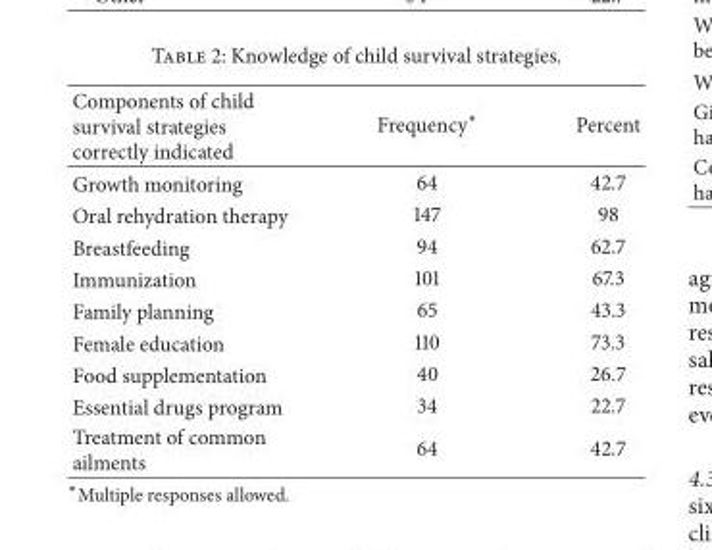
<table><thead><tr><td>Components of child survival strategies correctly indicated</td><td>Frequency∗</td><td>Percent</td></tr></thead><tbody><tr><td>Growth monitoring</td><td>64</td><td>42.7</td></tr><tr><td>Oral rehydration therapy</td><td>147</td><td>98</td></tr><tr><td>Breastfeeding</td><td>94</td><td>62.7</td></tr><tr><td>Immunization</td><td>101</td><td>67.3</td></tr><tr><td>Family planning</td><td>65</td><td>43.3</td></tr><tr><td>Female education</td><td>110</td><td>73.3</td></tr><tr><td>Food supplementation</td><td>40</td><td>26.7</td></tr><tr><td>Essential drugs program</td><td>34</td><td>22.7</td></tr><tr><td>Treatment of common ailments</td><td>64</td><td>42.7</td></tr></tbody></table>